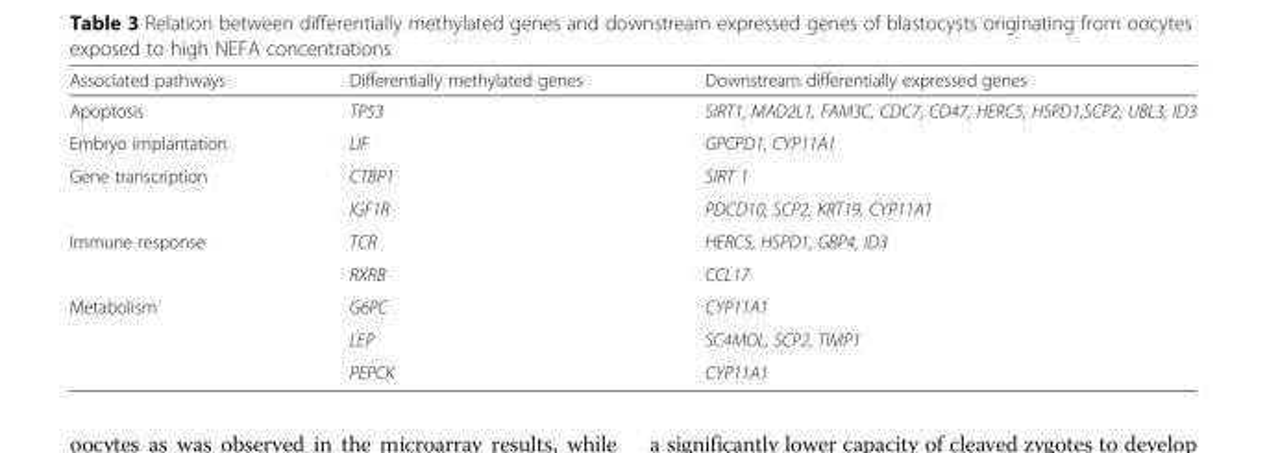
<table><thead><tr><td>Associated pathways</td><td>Differentially methylated genes</td><td>Downstream differentially expressed genes</td></tr></thead><tbody><tr><td>Apoptosis</td><td>TP53</td><td>SIRT1, MAD2L1, FAM3C, CDC7, CD47, HERC5, HSPD1,SCP2, UBL3, ID3</td></tr><tr><td>Embryo implantation</td><td>LIF</td><td>GPCPD1, CYP11A1</td></tr><tr><td rowspan="2">Gene transcription</td><td>CTBP1</td><td>SIRT 1</td></tr><tr><td>IGF1R</td><td>PDCD10, SCP2, KRT19, CYP11A1</td></tr><tr><td rowspan="2">Immune response</td><td>TCR</td><td>HERC5, HSPD1, GBP4, ID3</td></tr><tr><td>RXRB</td><td>CCL17</td></tr><tr><td rowspan="3">Metabolism</td><td>G6PC</td><td>CYP11A1</td></tr><tr><td>LEP</td><td>SC4MOL, SCP2, TIMP1</td></tr><tr><td>PEPCK</td><td>CYP11A1</td></tr></tbody></table>